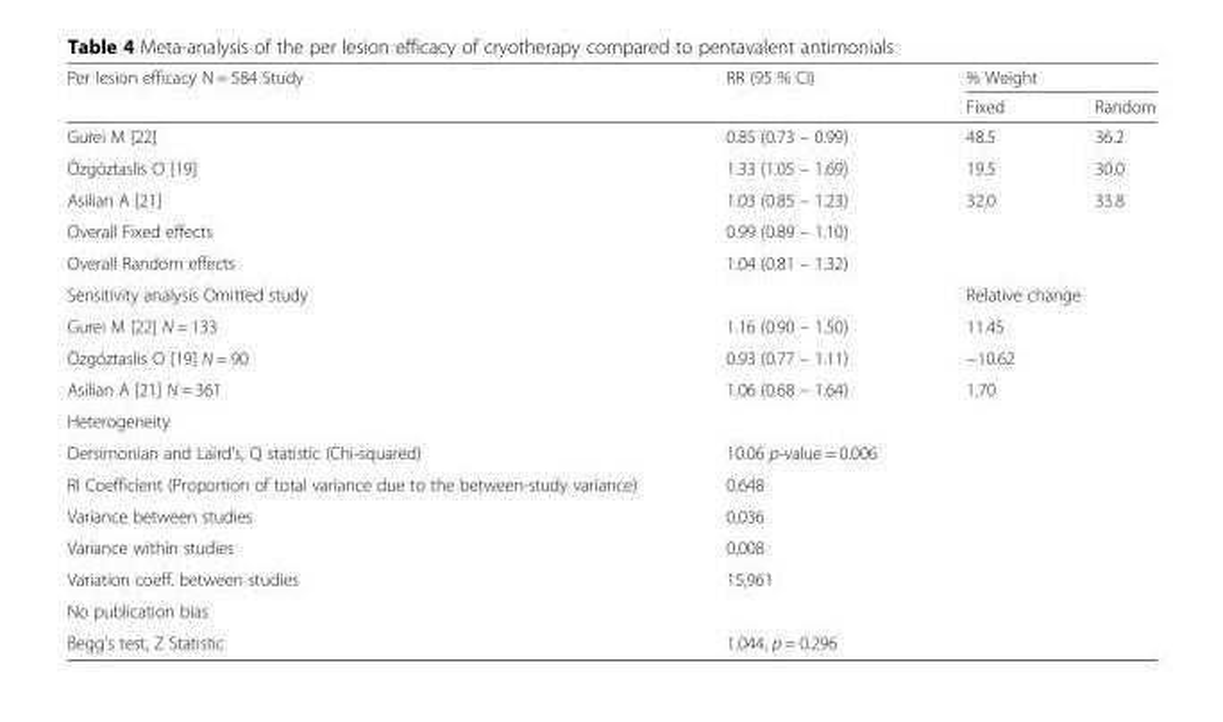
<table><thead><tr><td rowspan="2">Per lesion efficacy N = 584 Study</td><td rowspan="2">RR (95 % CI)</td><td colspan="2">% Weight</td></tr><tr><td>Fixed</td><td>Random</td></tr></thead><tbody><tr><td>Gurei M [22]</td><td>0.85 (0.73 – 0.99)</td><td>48.5</td><td>36.2</td></tr><tr><td>Özgóztaslis O [19]</td><td>1.33 (1.05 – 1.69)</td><td>19.5</td><td>30.0</td></tr><tr><td>Asilian A [21]</td><td>1.03 (0.85 – 1.23)</td><td>32.0</td><td>33.8</td></tr><tr><td>Overall Fixed effects</td><td>0.99 (0.89 – 1.10)</td><td></td><td></td></tr><tr><td>Overall Random effects</td><td>1.04 (0.81 – 1.32)</td><td></td><td></td></tr><tr><td>Sensitivity analysis Omitted study</td><td></td><td colspan="2">Relative change</td></tr><tr><td>Gurei M [22] N = 133</td><td>1.16 (0.90 – 1.50)</td><td colspan="2">11.45</td></tr><tr><td>Özgóztaslis O [19] N = 90</td><td>0.93 (0.77 – 1.11)</td><td colspan="2">−10.62</td></tr><tr><td>Asilian A [21] N = 361</td><td>1.06 (0.68 – 1.64)</td><td colspan="2">1.70</td></tr><tr><td colspan="4">Heterogeneity</td></tr><tr><td>Dersimonian and Laird&#x27;s, Q statistic (Chi-squared)</td><td>10.06 p-value = 0.006</td><td colspan="2"></td></tr><tr><td>RI Coefficient (Proportion of total variance due to the between-study variance)</td><td>0.648</td><td colspan="2"></td></tr><tr><td>Variance between studies</td><td>0,036</td><td colspan="2"></td></tr><tr><td>Variance within studies</td><td>0,008</td><td colspan="2"></td></tr><tr><td>Variation coeff. between studies</td><td>15,961</td><td colspan="2"></td></tr><tr><td colspan="4">No publication bias</td></tr><tr><td>Begg’s test, Z Statistic</td><td>1.044, p = 0.296</td><td colspan="2"></td></tr></tbody></table>